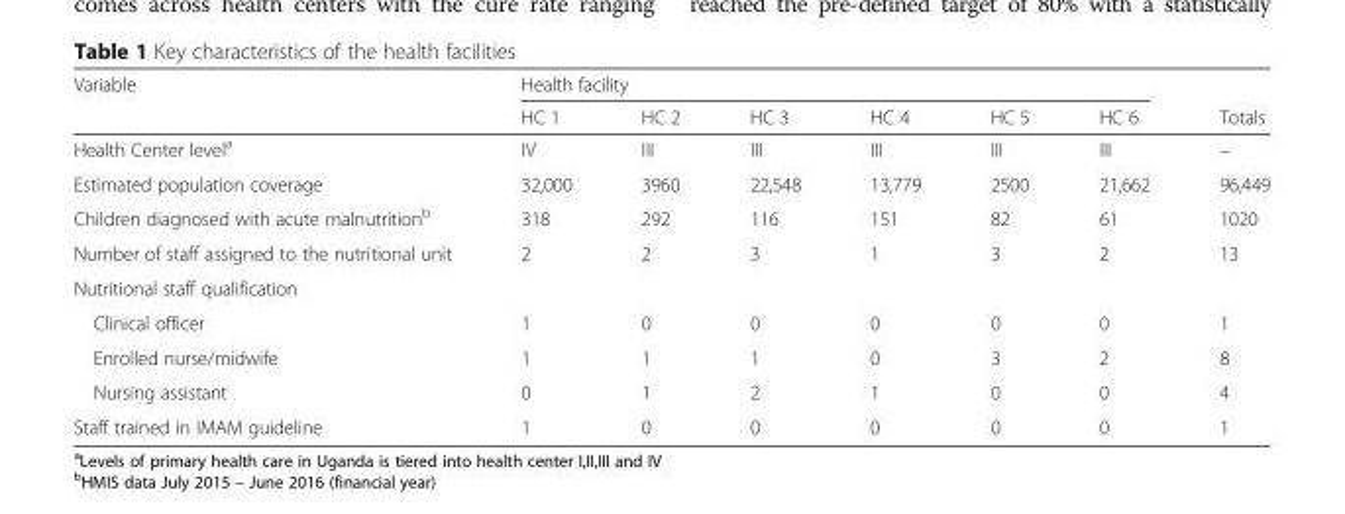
<table><thead><tr><td rowspan="2">Variable</td><td colspan="6">Health facility</td><td rowspan="2">Totals</td></tr><tr><td>HC 1</td><td>HC 2</td><td>HC 3</td><td>HC 4</td><td>HC 5</td><td>HC 6</td></tr></thead><tbody><tr><td>Health Center level<sup>a</sup></td><td>IV</td><td>III</td><td>III</td><td>III</td><td>III</td><td>III</td><td>–</td></tr><tr><td>Estimated population coverage</td><td>32,000</td><td>3960</td><td>22,548</td><td>13,779</td><td>2500</td><td>21,662</td><td>96,449</td></tr><tr><td>Children diagnosed with acute malnutrition<sup>b</sup></td><td>318</td><td>292</td><td>116</td><td>151</td><td>82</td><td>61</td><td>1020</td></tr><tr><td>Number of staff assigned to the nutritional unit</td><td>2</td><td>2</td><td>3</td><td>1</td><td>3</td><td>2</td><td>13</td></tr><tr><td colspan="8">Nutritional staff qualification</td></tr><tr><td>Clinical officer</td><td>1</td><td>0</td><td>0</td><td>0</td><td>0</td><td>0</td><td>1</td></tr><tr><td>Enrolled nurse/midwife</td><td>1</td><td>1</td><td>1</td><td>0</td><td>3</td><td>2</td><td>8</td></tr><tr><td>Nursing assistant</td><td>0</td><td>1</td><td>2</td><td>1</td><td>0</td><td>0</td><td>4</td></tr><tr><td>Staff trained in IMAM guideline</td><td>1</td><td>0</td><td>0</td><td>0</td><td>0</td><td>0</td><td>1</td></tr></tbody></table>